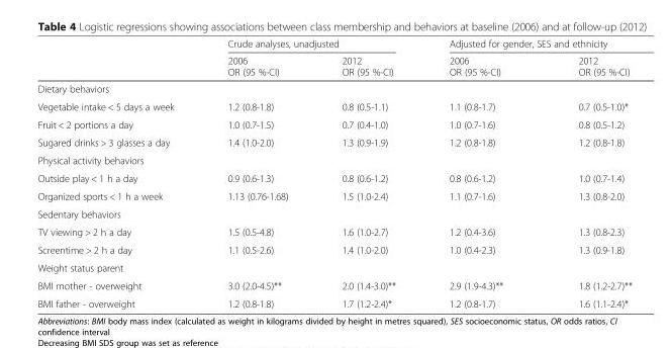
<table><thead><tr><td rowspan="2"></td><td colspan="2">Crude analyses, unadjusted</td><td colspan="2">Adjusted for gender, SES and ethnicity</td></tr><tr><td>2006 OR (95 %-CI)</td><td>2012 OR (95 %-CI)</td><td>2006 OR (95 %-CI)</td><td>2012 OR (95 %-CI)</td></tr></thead><tbody><tr><td colspan="5">Dietary behaviors</td></tr><tr><td>Vegetable intake &lt; 5 days a week</td><td>1.2 (0.8-1.8)</td><td>0.8 (0.5-1.1)</td><td>1.1 (0.8-1.7)</td><td>0.7 (0.5-1.0)*</td></tr><tr><td>Fruit &lt; 2 portions a day</td><td>1.0 (0.7-1.5)</td><td>0.7 (0.4-1.0)</td><td>1.0 (0.7-1.6)</td><td>0.8 (0.5-1.2)</td></tr><tr><td>Sugared drinks &gt; 3 glasses a day</td><td>1.4 (1.0-2.0)</td><td>1.3 (0.9-1.9)</td><td>1.2 (0.8-1.8)</td><td>1.2 (0.8-1.8)</td></tr><tr><td colspan="5">Physical activity behaviors</td></tr><tr><td>Outside play &lt; 1 h a day</td><td>0.9 (0.6-1.3)</td><td>0.8 (0.6-1.2)</td><td>0.8 (0.6-1.2)</td><td>1.0 (0.7-1.4)</td></tr><tr><td>Organized sports &lt; 1 h a week</td><td>1.13 (0.76-1.68)</td><td>1.5 (1.0-2.4)</td><td>1.1 (0.7-1.6)</td><td>1.3 (0.8-2.0)</td></tr><tr><td colspan="5">Sedentary behaviors</td></tr><tr><td>TV viewing &gt; 2 h a day</td><td>1.5 (0.5-4.8)</td><td>1.6 (1.0-2.7)</td><td>1.2 (0.4-3.6)</td><td>1.3 (0.8-2.3)</td></tr><tr><td>Screentime &gt; 2 h a day</td><td>1.1 (0.5-2.6)</td><td>1.4 (1.0-2.0)</td><td>1.0 (0.4-2.3)</td><td>1.3 (0.9-1.8)</td></tr><tr><td colspan="5">Weight status parent</td></tr><tr><td>BMI mother - overweight</td><td>3.0 (2.0-4.5)**</td><td>2.0 (1.4-3.0)**</td><td>2.9 (1.9-4.3)**</td><td>1.8 (1.2-2.7)**</td></tr><tr><td>BMI father - overweight</td><td>1.2 (0.8-1.8)</td><td>1.7 (1.2-2.4)*</td><td>1.2 (0.8-1.7)</td><td>1.6 (1.1-2.4)*</td></tr></tbody></table>